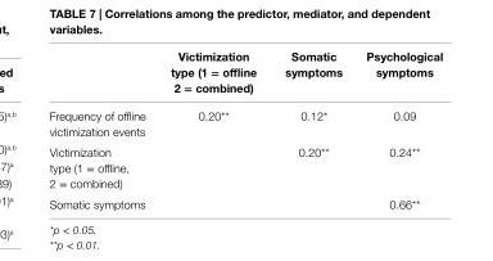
<table><thead><tr><td></td><td>Victimization type (1 = offline 2 = combined)</td><td>somatic symptoms</td><td>Psychological symptoms</td></tr></thead><tbody><tr><td>Frequency of offline victimization events</td><td>0.20**</td><td>0.12*</td><td>0.09</td></tr><tr><td>Victimization type (1 = offline, 2 = combined)</td><td></td><td>0.20**</td><td>0.24**</td></tr><tr><td>Somatic symptoms</td><td></td><td></td><td>0.66**</td></tr></tbody></table>